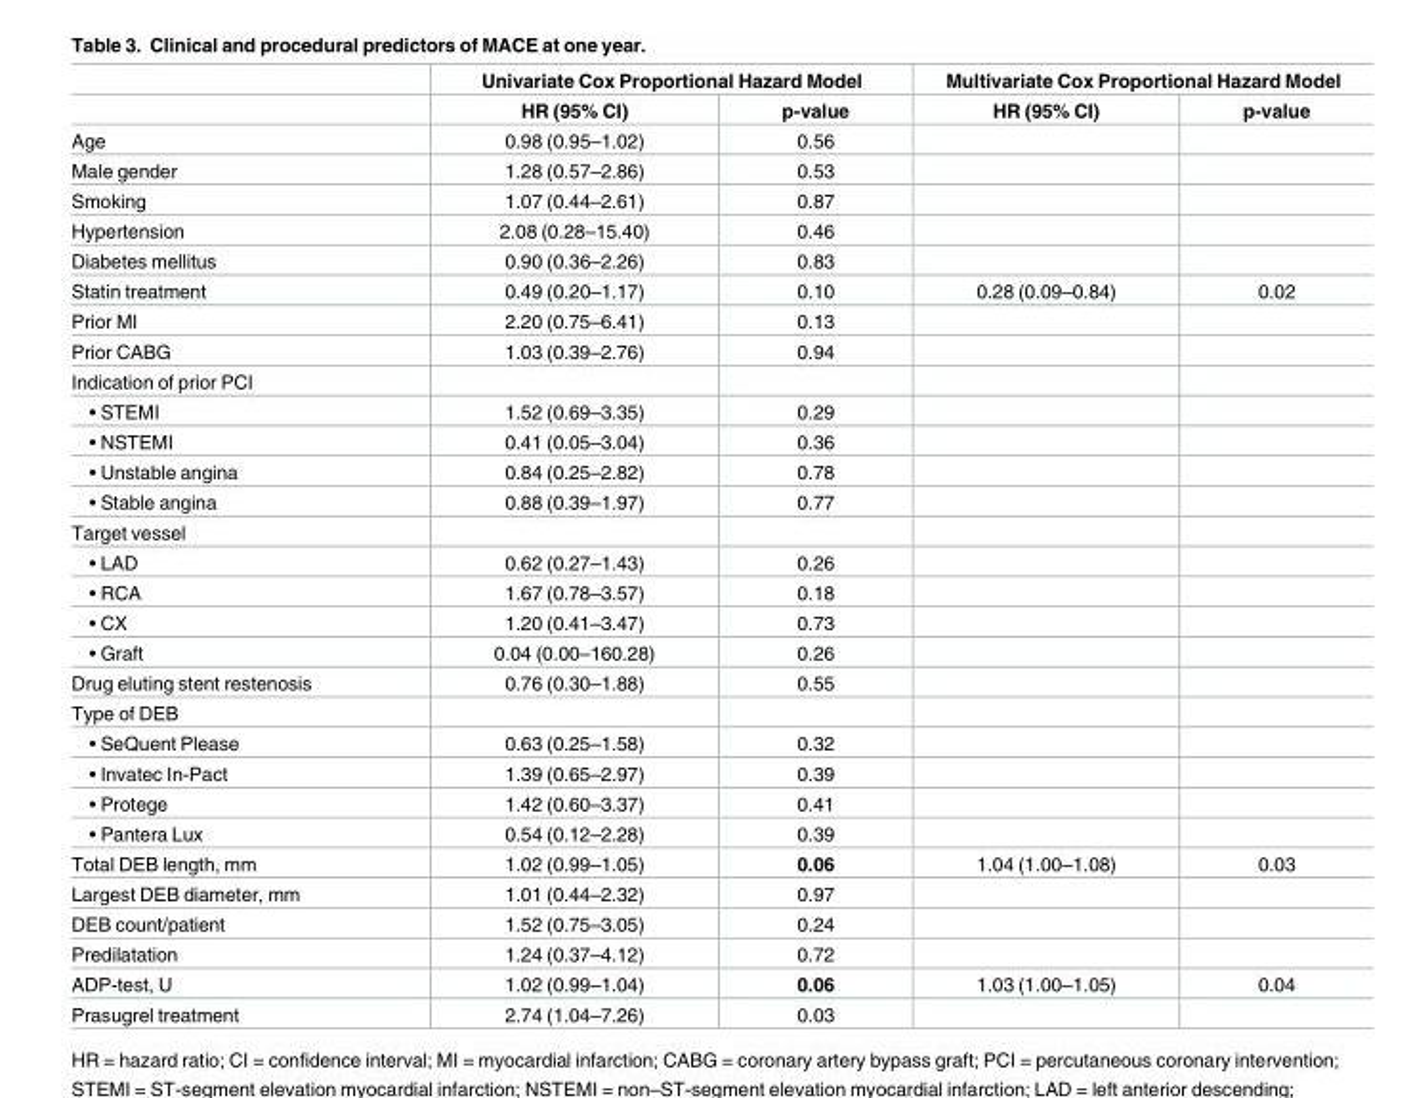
<table><thead><tr><td rowspan="2"></td><td colspan="2">Univariate Cox Proportional Hazard Model</td><td colspan="2">Multivariate Cox Proportional Hazard Model</td></tr><tr><td>HR (95% CI)</td><td>p-value</td><td>HR (95% CI)</td><td>p-value</td></tr></thead><tbody><tr><td>Age</td><td>0.98 (0.95–1.02)</td><td>0.56</td><td></td><td></td></tr><tr><td>Male gender</td><td>1.28 (0.57–2.86)</td><td>0.53</td><td></td><td></td></tr><tr><td>Smoking</td><td>1.07 (0.44–2.61)</td><td>0.87</td><td></td><td></td></tr><tr><td>Hypertension</td><td>2.08 (0.28–15.40)</td><td>0.46</td><td></td><td></td></tr><tr><td>Diabetes mellitus</td><td>0.90 (0.36–2.26)</td><td>0.83</td><td></td><td></td></tr><tr><td>Statin treatment</td><td>0.49 (0.20–1.17)</td><td>0.10</td><td>0.28 (0.09–0.84)</td><td>0.02</td></tr><tr><td>Prior MI</td><td>2.20 (0.75–6.41)</td><td>0.13</td><td></td><td></td></tr><tr><td>Prior CABG</td><td>1.03 (0.39–2.76)</td><td>0.94</td><td></td><td></td></tr><tr><td colspan="5">Indication of prior PCI</td></tr><tr><td>• STEMI</td><td>1.52 (0.69–3.35)</td><td>0.29</td><td></td><td></td></tr><tr><td>• NSTEMI</td><td>0.41 (0.05–3.04)</td><td>0.36</td><td></td><td></td></tr><tr><td>• Unstable angina</td><td>0.84 (0.25–2.82)</td><td>0.78</td><td></td><td></td></tr><tr><td>• Stable angina</td><td>0.88 (0.39–1.97)</td><td>0.77</td><td></td><td></td></tr><tr><td colspan="5">Target vessel</td></tr><tr><td>• LAD</td><td>0.62 (0.27–1.43)</td><td>0.26</td><td></td><td></td></tr><tr><td>• RCA</td><td>1.67 (0.78–3.57)</td><td>0.18</td><td></td><td></td></tr><tr><td>• CX</td><td>1.20 (0.41–3.47)</td><td>0.73</td><td></td><td></td></tr><tr><td>• Graft</td><td>0.04 (0.00–160.28)</td><td>0.26</td><td></td><td></td></tr><tr><td>Drug eluting stent restenosis</td><td>0.76 (0.30–1.88)</td><td>0.55</td><td></td><td></td></tr><tr><td colspan="5">Type of DEB</td></tr><tr><td>• SeQuent Please</td><td>0.63 (0.25–1.58)</td><td>0.32</td><td></td><td></td></tr><tr><td>• Invatec In-Pact</td><td>1.39 (0.65–2.97)</td><td>0.39</td><td></td><td></td></tr><tr><td>• Protege</td><td>1.42 (0.60–3.37)</td><td>0.41</td><td></td><td></td></tr><tr><td>• Pantera Lux</td><td>0.54 (0.12–2.28)</td><td>0.39</td><td></td><td></td></tr><tr><td>Total DEB length, mm</td><td>1.02 (0.99–1.05)</td><td>0.06</td><td>1.04 (1.00–1.08)</td><td>0.03</td></tr><tr><td>Largest DEB diameter, mm</td><td>1.01 (0.44–2.32)</td><td>0.97</td><td></td><td></td></tr><tr><td>DEB count/patient</td><td>1.52 (0.75–3.05)</td><td>0.24</td><td></td><td></td></tr><tr><td>Predilatation</td><td>1.24 (0.37–4.12)</td><td>0.72</td><td></td><td></td></tr><tr><td>ADP-test, U</td><td>1.02 (0.99–1.04)</td><td>0.06</td><td>1.03 (1.00–1.05)</td><td>0.04</td></tr><tr><td>Prasugrel treatment</td><td>2.74 (1.04–7.26)</td><td>0.03</td><td></td><td></td></tr></tbody></table>